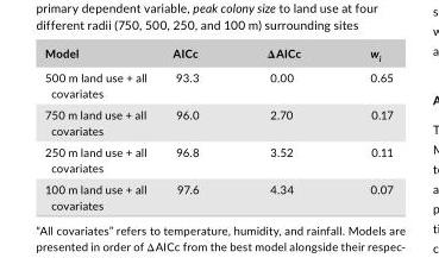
<table><thead><tr><td>Model</td><td>AICc</td><td>ΔAICc</td><td>w<sub>i</sub></td></tr></thead><tbody><tr><td>500 m land use + all covariates</td><td>93.3</td><td>0.00</td><td>0.65</td></tr><tr><td>750 m land use + all covariates</td><td>96.0</td><td>2.70</td><td>0.17</td></tr><tr><td>250 m land use + all covariates</td><td>96.8</td><td>3.52</td><td>0.11</td></tr><tr><td>100 m land use + all covariates</td><td>97.6</td><td>4.34</td><td>0.07</td></tr></tbody></table>